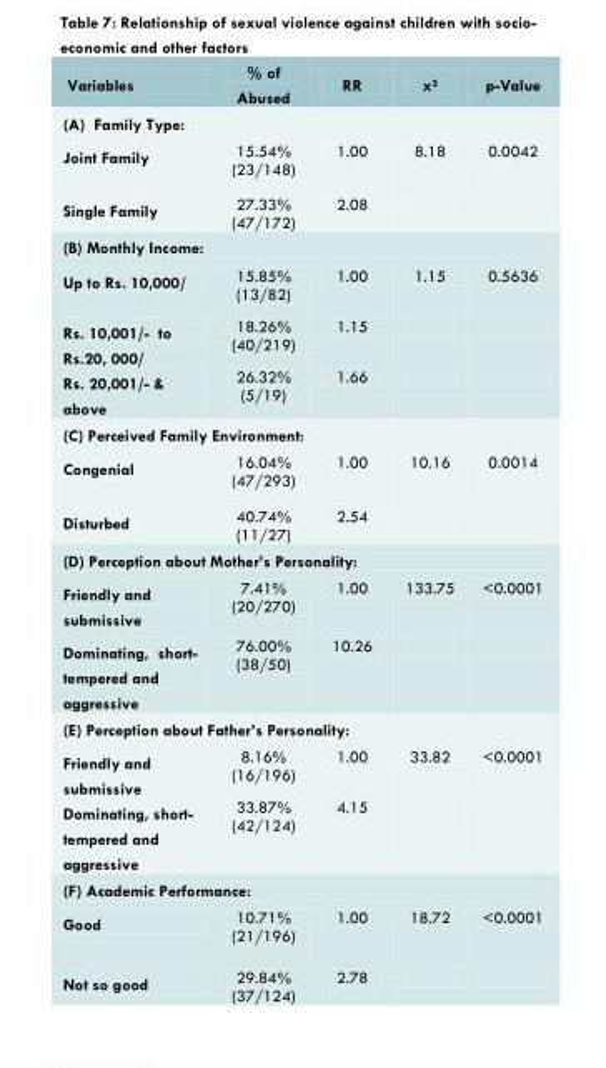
<table><thead><tr><td>Variables</td><td>% of Abused</td><td>RR</td><td>xP2</td><td>p-Value</td></tr></thead><tbody><tr><td colspan="5">(A) Family Type:</td></tr><tr><td>Joint Family</td><td>15.54% (23/148)</td><td>1.00</td><td>8.18</td><td>0.0042</td></tr><tr><td>Single Family</td><td>27.33% (47/172)</td><td>2.08</td><td></td><td></td></tr><tr><td colspan="5">(B) Monthly Income:</td></tr><tr><td>Up to Rs. 10,000/</td><td>15.85% (13/82)</td><td>1.00</td><td>1.15</td><td>0.5636</td></tr><tr><td>Rs. 10,001/- to Rs.20, 000/</td><td>18.26% (40/219)</td><td>1.15</td><td></td><td></td></tr><tr><td>Rs. 20,001/- &amp; above</td><td>26.32% (5/19)</td><td>1.66</td><td></td><td></td></tr><tr><td colspan="5">(C) Perceived Family Environment:</td></tr><tr><td>Congenial</td><td>16.04% (47/293)</td><td>1.00</td><td>10.16</td><td>0.0014</td></tr><tr><td>Disturbed</td><td>40.74% (11/27)</td><td>2.54</td><td></td><td></td></tr><tr><td colspan="5">(D) Perception about Mother’s Personality:</td></tr><tr><td>Friendly and submissive</td><td>7.41% (20/270)</td><td>1.00</td><td>133.75</td><td>&lt;0.0001</td></tr><tr><td>Dominating, short- tempered and aggressive</td><td>76.00% (38/50)</td><td>10.26</td><td></td><td></td></tr><tr><td colspan="5">(E) Perception about Father’s Personality:</td></tr><tr><td>Friendly and submissive</td><td>8.16% (16/196)</td><td>1.00</td><td>33.82</td><td>&lt;0.0001</td></tr><tr><td>Dominating, short- tempered and aggressive</td><td>33.87% (42/124)</td><td>4.15</td><td></td><td></td></tr><tr><td colspan="5">(F) Academic Performance:</td></tr><tr><td>Good</td><td>10.71% (21/196)</td><td>1.00</td><td>18.72</td><td>&lt;0.0001</td></tr><tr><td>Not so good</td><td>29.84% (37/124)</td><td>2.78</td><td></td><td></td></tr></tbody></table>